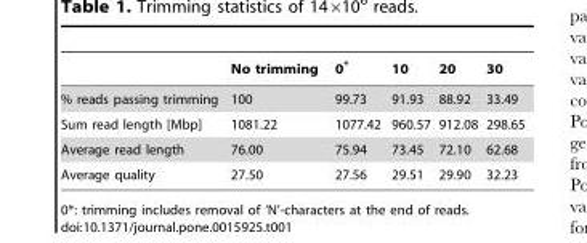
<table><thead><tr><td></td><td>No trimming</td><td>0*</td><td>10</td><td>20</td><td>30</td></tr></thead><tbody><tr><td>% reads passing trimming</td><td>100</td><td>99.73</td><td>91.93</td><td>88.92</td><td>33.49</td></tr><tr><td>Sum read length [Mbp]</td><td>1081.22</td><td>1077.42</td><td>960.57</td><td>912.08</td><td>298.65</td></tr><tr><td>Average read length</td><td>76.00</td><td>75.94</td><td>73.45</td><td>72.10</td><td>62.68</td></tr><tr><td>Average quality</td><td>27.50</td><td>27.56</td><td>29.51</td><td>29.90</td><td>32.23</td></tr></tbody></table>